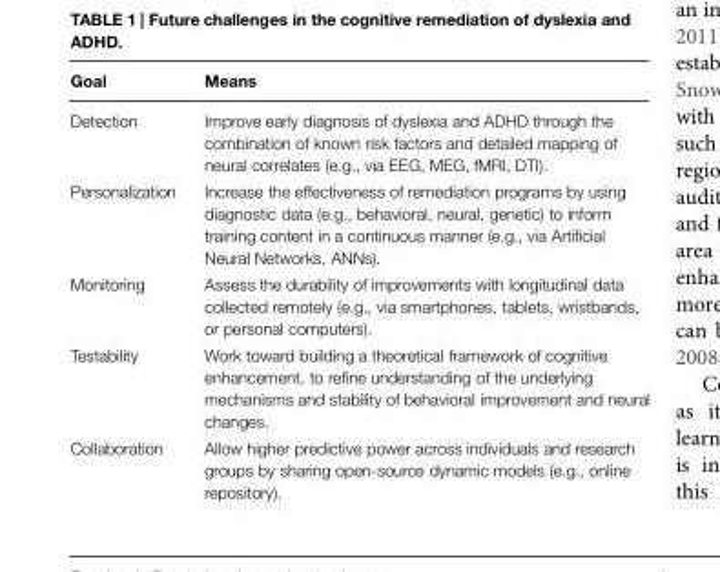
<table><thead><tr><td>Goal</td><td>Means</td></tr></thead><tbody><tr><td>Detection</td><td>Improve early diagnosis of dyslexia and ADHD through the combination of known risk factors and detailed mapping of neural correlates (e.g., via EEG, MEG, fMRI, DTI).</td></tr><tr><td>Personalization</td><td>Increase the effectiveness of remediation programs by using diagnostic data (e.g., behavioral, neural, genetic) to inform training content in a continuous manner (e.g., via Artificial Neural Networks, ANNs).</td></tr><tr><td>Monitoring</td><td>Assess the durability of improvements with longitudinal data collected remotely (e.g., via smartphones, tablets, wristbands, or personal computers).</td></tr><tr><td>Testability</td><td>Work toward building a theoretical framework of cognitive enhancement, to refine understanding of the underlying mechanisms and stability of behavioral improvement and neural changes.</td></tr><tr><td>Collaboration</td><td>Allow higher predictive power across individuals and research groups by sharing open-source dynamic models (e.g., online repository).</td></tr></tbody></table>